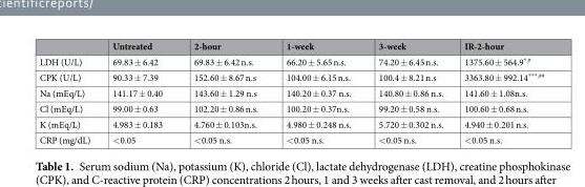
<table><thead><tr><td></td><td>Untreated</td><td>2-hour</td><td>1-week</td><td>3-week</td><td>IR-2-hour</td></tr></thead><tbody><tr><td>LDH (U/L)</td><td>69.83 ± 6.42</td><td>69.83 ± 6.42 n.s.</td><td>66.20 ± 5.65 n.s.</td><td>74.20 ± 6.45 n.s.</td><td>1375.60 ± 564.9<sup>*,#</sup></td></tr><tr><td>CPK (U/L)</td><td>90.33 ± 7.39</td><td>152.60 ± 8.67 n.s</td><td>104.00 ± 6.15 n.s.</td><td>100.4 ± 8.21 n.s</td><td>3363.80 ± 992.14<sup>***,##</sup></td></tr><tr><td>Na (mEq/L)</td><td>141.17 ± 0.40</td><td>143.60 ± 1.29 n.s</td><td>140.20 ± 0.37 n.s.</td><td>140.80 ± 0.86 n.s.</td><td>141.60 ± 1.08n.s.</td></tr><tr><td>Cl (mEq/L)</td><td>99.00 ± 0.63</td><td>102.20 ± 0.86 n.s.</td><td>100.20 ± 0.37n.s.</td><td>99.20 ± 0.58 n.s.</td><td>100.60 ± 0.68 n.s.</td></tr><tr><td>K (mEq/L)</td><td>4.983 ± 0.183</td><td>4.760 ± 0.103n.s.</td><td>4.980 ± 0.248 n.s.</td><td>5.720 ± 0.302 n.s.</td><td>4.940 ± 0.201 n.s.</td></tr><tr><td>CRP (mg/dL)</td><td>&lt;0.05</td><td>&lt;0.05 n.s.</td><td>&lt;0.05 n.s.</td><td>&lt;0.05 n.s.</td><td>&lt;0.05 n.s.</td></tr></tbody></table>